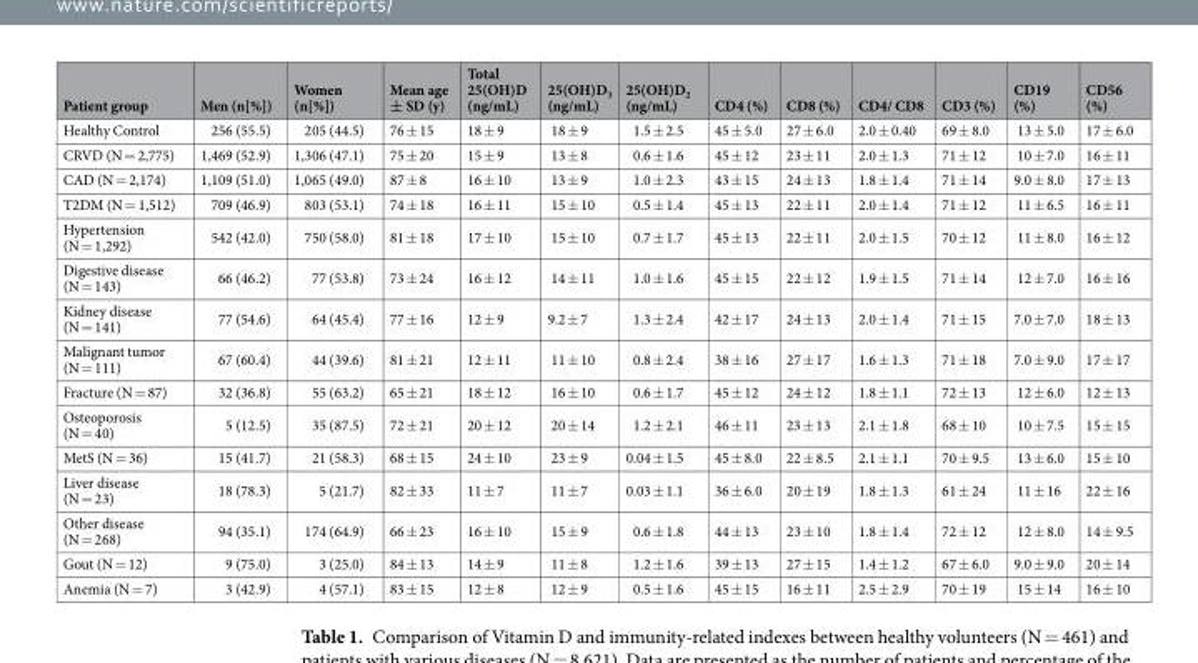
<table><thead><tr><td>Patient group</td><td>Men (n[%])</td><td>Women (n[%])</td><td>Mean age ± SD (y)</td><td>Total 25(OH)D (ng/mL)</td><td>25(OH)D<sub>3</sub> (ng/mL)</td><td>25(OH)D<sub>2</sub> (ng/mL)</td><td>CD4 (%)</td><td>CD8 (%)</td><td>CD4/ CD8</td><td>CD3 (%)</td><td>CD19 (%)</td><td>CD56 (%)</td></tr></thead><tbody><tr><td>Healthy Control</td><td>256 (55.5)</td><td>205 (44.5)</td><td>76 ± 15</td><td>18 ± 9</td><td>18 ± 9</td><td>1.5 ± 2.5</td><td>45 ± 5.0</td><td>27 ± 6.0</td><td>2.0 ± 0.40</td><td>69 ± 8.0</td><td>13 ± 5.0</td><td>17 ± 6.0</td></tr><tr><td>CRVD (N = 2,775)</td><td>1,469 (52.9)</td><td>1,306 (47.1)</td><td>75 ± 20</td><td>15 ± 9</td><td>13 ± 8</td><td>0.6 ± 1.6</td><td>45 ± 12</td><td>23 ± 11</td><td>2.0 ± 1.3</td><td>71 ± 12</td><td>10 ± 7.0</td><td>16 ± 11</td></tr><tr><td>CAD (N = 2,174)</td><td>1,109 (51.0)</td><td>1,065 (49.0)</td><td>87 ± 8</td><td>16 ± 10</td><td>13 ± 9</td><td>1.0 ± 2.3</td><td>43 ± 15</td><td>24 ± 13</td><td>1.8 ± 1.4</td><td>71 ± 14</td><td>9.0 ± 8.0</td><td>17 ± 13</td></tr><tr><td>T2DM (N = 1,512)</td><td>709 (46.9)</td><td>803 (53.1)</td><td>74 ± 18</td><td>16 ± 11</td><td>15 ± 10</td><td>0.5 ± 1.4</td><td>45 ± 13</td><td>22 ± 11</td><td>2.0 ± 1.4</td><td>71 ± 12</td><td>11 ± 6.5</td><td>16 ± 11</td></tr><tr><td>Hypertension (N = 1,292)</td><td>542 (42.0)</td><td>750 (58.0)</td><td>81 ± 18</td><td>17 ± 10</td><td>15 ± 10</td><td>0.7 ± 1.7</td><td>45 ± 13</td><td>22 ± 11</td><td>2.0 ± 1.5</td><td>70 ± 12</td><td>11 ± 8.0</td><td>16 ± 12</td></tr><tr><td>Digestive disease (N = 143)</td><td>66 (46.2)</td><td>77 (53.8)</td><td>73 ± 24</td><td>16 ± 12</td><td>14 ± 11</td><td>1.0 ± 1.6</td><td>45 ± 15</td><td>22 ± 12</td><td>1.9 ± 1.5</td><td>71 ± 14</td><td>12 ± 7.0</td><td>16 ± 16</td></tr><tr><td>Kidney disease (N = 141)</td><td>77 (54.6)</td><td>64 (45.4)</td><td>77 ± 16</td><td>12 ± 9</td><td>9.2 ± 7</td><td>1.3 ± 2.4</td><td>42 ± 17</td><td>24 ± 13</td><td>2.0 ± 1.4</td><td>71 ± 15</td><td>7.0 ± 7.0</td><td>18 ± 13</td></tr><tr><td>Malignant tumor (N = 111)</td><td>67 (60.4)</td><td>44 (39.6)</td><td>81 ± 21</td><td>12 ± 11</td><td>11 ± 10</td><td>0.8 ± 2.4</td><td>38 ± 16</td><td>27 ± 17</td><td>1.6 ± 1.3</td><td>71 ± 18</td><td>7.0 ± 9.0</td><td>17 ± 17</td></tr><tr><td>Fracture (N = 87)</td><td>32 (36.8)</td><td>55 (63.2)</td><td>65 ± 21</td><td>18 ± 12</td><td>16 ± 10</td><td>0.6 ± 1.7</td><td>45 ± 12</td><td>24 ± 12</td><td>1.8 ± 1.1</td><td>72 ± 13</td><td>12 ± 6.0</td><td>12 ± 13</td></tr><tr><td>Osteoporosis (N = 40)</td><td>5 (12.5)</td><td>35 (87.5)</td><td>72 ± 21</td><td>20 ± 12</td><td>20 ± 14</td><td>1.2 ± 2.1</td><td>46 ± 11</td><td>23 ± 13</td><td>2.1 ± 1.8</td><td>68 ± 10</td><td>10 ± 7.5</td><td>15 ± 15</td></tr><tr><td>MetS (N = 36)</td><td>15 (41.7)</td><td>21 (58.3)</td><td>68 ± 15</td><td>24 ± 10</td><td>23 ± 9</td><td>0.04 ± 1.5</td><td>45 ± 8.0</td><td>22 ± 8.5</td><td>2.1 ± 1.1</td><td>70 ± 9.5</td><td>13 ± 6.0</td><td>15 ± 10</td></tr><tr><td>Liver disease (N = 23)</td><td>18 (78.3)</td><td>5 (21.7)</td><td>82 ± 33</td><td>11 ± 7</td><td>11 ± 7</td><td>0.03 ± 1.1</td><td>36 ± 6.0</td><td>20 ± 19</td><td>1.8 ± 1.3</td><td>61 ± 24</td><td>11 ± 16</td><td>22 ± 16</td></tr><tr><td>Other disease (N = 268)</td><td>94 (35.1)</td><td>174 (64.9)</td><td>66 ± 23</td><td>16 ± 10</td><td>15 ± 9</td><td>0.6 ± 1.8</td><td>44 ± 13</td><td>23 ± 10</td><td>1.8 ± 1.4</td><td>72 ± 12</td><td>12 ± 8.0</td><td>14 ± 9.5</td></tr><tr><td>Gout (N = 12)</td><td>9 (75.0)</td><td>3 (25.0)</td><td>84 ± 13</td><td>14 ± 9</td><td>11 ± 8</td><td>1.2 ± 1.6</td><td>39 ± 13</td><td>27 ± 15</td><td>1.4 ± 1.2</td><td>67 ± 6.0</td><td>9.0 ± 9.0</td><td>20 ± 14</td></tr><tr><td>Anemia (N = 7)</td><td>3 (42.9)</td><td>4 (57.1)</td><td>83 ± 15</td><td>12 ± 8</td><td>12 ± 9</td><td>0.5 ± 1.6</td><td>45 ± 15</td><td>16 ± 11</td><td>2.5 ± 2.9</td><td>70 ± 19</td><td>15 ± 14</td><td>16 ± 10</td></tr></tbody></table>